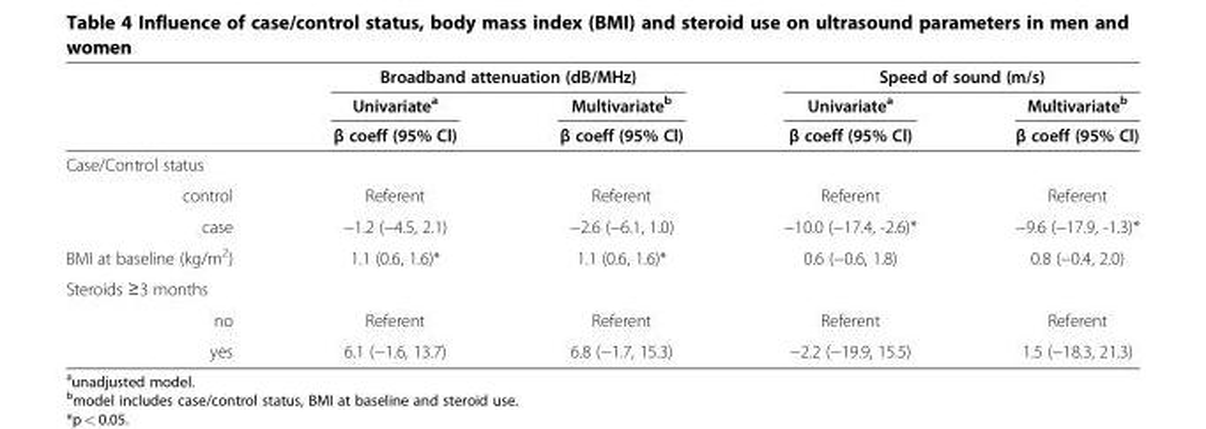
<table><thead><tr><td rowspan="3"></td><td colspan="2">Broadband attenuation (dB/MHz)</td><td colspan="2">Speed of sound (m/s)</td></tr><tr><td rowspan="2">Univariate<sup>a</sup> β coeff (95% Cl)</td><td rowspan="2">Multivariate<sup>b</sup> β coeff (95% Cl)</td><td rowspan="2">Univariate<sup>a</sup> β coeff (95% Cl)</td><td rowspan="2">Multivariate<sup>b</sup> β coeff (95% Cl)</td></tr><tr></tr></thead><tbody><tr><td colspan="5">Case/Control status</td></tr><tr><td>control</td><td>Referent</td><td>Referent</td><td>Referent</td><td>Referent</td></tr><tr><td>case</td><td>−1.2 (−4.5, 2.1)</td><td>−2.6 (−6.1, 1.0)</td><td>−10.0 (−17.4, -2.6)*</td><td>−9.6 (−17.9, -1.3)*</td></tr><tr><td>BMI at baseline (kg/m<sup>2</sup>)</td><td>1.1 (0.6, 1.6)*</td><td>1.1 (0.6, 1.6)*</td><td>0.6 (−0.6, 1.8)</td><td>0.8 (−0.4, 2.0)</td></tr><tr><td colspan="5">Steroids ≥3 months</td></tr><tr><td>no</td><td>Referent</td><td>Referent</td><td>Referent</td><td>Referent</td></tr><tr><td>yes</td><td>6.1 (−1.6, 13.7)</td><td>6.8 (−1.7, 15.3)</td><td>−2.2 (−19.9, 15.5)</td><td>1.5 (−18.3, 21.3)</td></tr></tbody></table>